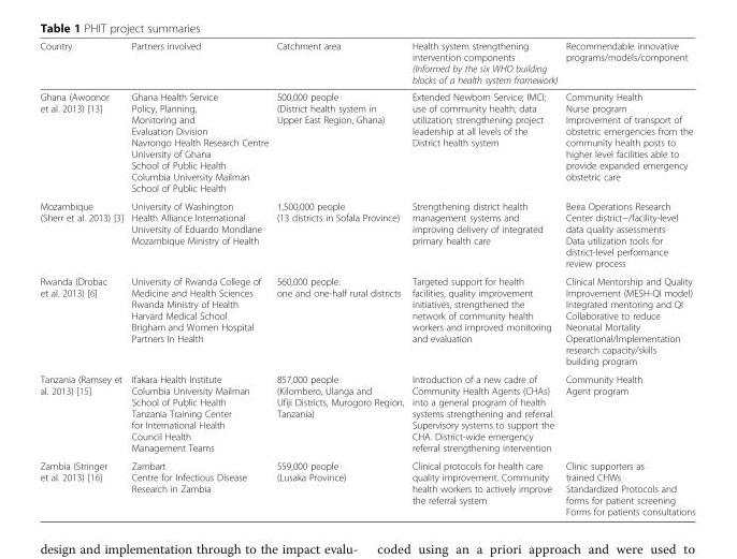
<table><thead><tr><td>Country</td><td>Partners involved</td><td>Catchment area</td><td>Health system strengthening intervention components (Informed by the six WHO building blocks of a health system framework)</td><td>Recommendable innovative programs/models/component</td></tr></thead><tbody><tr><td>Ghana (Awoonor et al. 2013) [13]</td><td>Ghana Health Service Policy, Planning, Monitoring and Evaluation Division Navrongo Health Research Centre University of Ghana School of Public Health Columbia University Mailman School of Public Health</td><td>500,000 people (District health system in Upper East Region, Ghana)</td><td>Extended Newborn Service; IMCI; use of community health; data utilization; strengthening project leadership at all levels of the District health system</td><td>Community Health Nurse program Improvement of transport of obstetric emergencies from the community health posts to higher level facilities able to provide expanded emergency obstetric care</td></tr><tr><td>Mozambique (Sherr et al. 2013) [3]</td><td>University of Washington Health Alliance International University of Eduardo Mondlane Mozambique Ministry of Health</td><td>1,500,000 people (13 districts in Sofala Province)</td><td>Strengthening district health management systems and improving delivery of integrated primary health care</td><td>Beira Operations Research Center district−/facility-level data quality assessments Data utilization tools for district-level performance review process</td></tr><tr><td>Rwanda (Drobac et al. 2013) [6]</td><td>University of Rwanda College of Medicine and Health Sciences Rwanda Ministry of Health Harvard Medical School Brigham and Women Hospital Partners In Health</td><td>560,000 people: one and one-half rural districts</td><td>Targeted support for health facilities, quality improvement initiatives, strengthened the network of community health workers and improved monitoring and evaluation</td><td>Clinical Mentorship and Quality Improvement (MESH-QI model) Integrated mentoring and QI Collaborative to reduce Neonatal Mortality Operational/Implementation research capacity/skills building program</td></tr><tr><td>Tanzania (Ramsey et al. 2013) [15]</td><td>Ifakara Health Institute Columbia University Mailman School of Public Health Tanzania Training Center for International Health Council Health Management Teams</td><td>857,000 people (Kilombero, Ulanga and Ufiji Districts, Murogoro Region, Tanzania)</td><td>Introduction of a new cadre of Community Health Agents (CHAs) into a general program of health systems strengthening and referral. Supervisory systems to support the CHA. District-wide emergency referral strengthening intervention</td><td>Community Health Agent program</td></tr><tr><td>Zambia (Stringer et al. 2013) [16]</td><td>Zambart Centre for Infectious Disease Research in Zambia</td><td>559,000 people (Lusaka Province)</td><td>Clinical protocols for health care quality improvement. Community health workers to actively improve the referral system</td><td>Clinic supporters as trained CHWs Standardized Protocols and forms for patient screening Forms for patients consultations</td></tr></tbody></table>